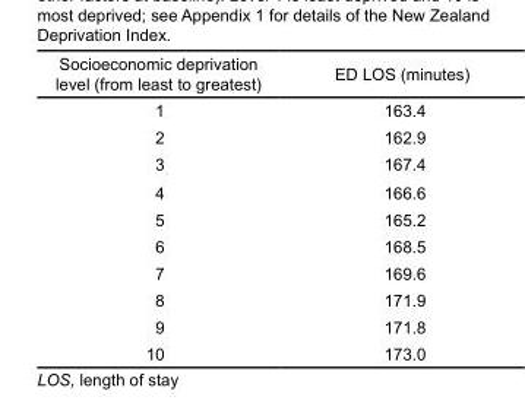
<table><thead><tr><td>Socioeconomic deprivation level (from least to greatest)</td><td>ED LOS (minutes)</td></tr></thead><tbody><tr><td>1</td><td>163.4</td></tr><tr><td>2</td><td>162.9</td></tr><tr><td>3</td><td>167.4</td></tr><tr><td>4</td><td>166.6</td></tr><tr><td>5</td><td>165.2</td></tr><tr><td>6</td><td>168.5</td></tr><tr><td>7</td><td>169.6</td></tr><tr><td>8</td><td>171.9</td></tr><tr><td>9</td><td>171.8</td></tr><tr><td>10</td><td>173.0</td></tr></tbody></table>